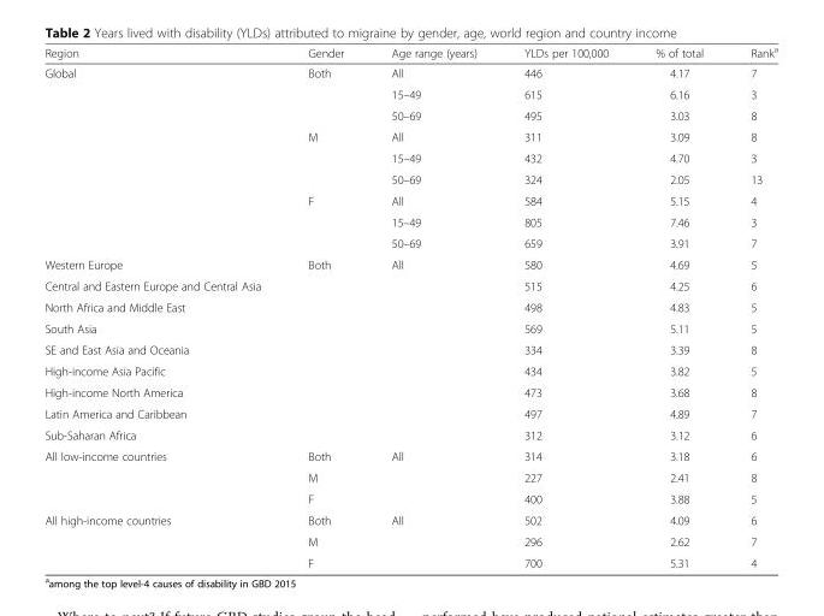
<table><thead><tr><td>Region</td><td>Gender</td><td>Age range (years)</td><td>YLDs per 100,000</td><td>% of total</td><td>Rank<sup>a</sup></td></tr></thead><tbody><tr><td rowspan="9">Global</td><td rowspan="3">Both</td><td>All</td><td>446</td><td>4.17</td><td>7</td></tr><tr><td>15–49</td><td>615</td><td>6.16</td><td>3</td></tr><tr><td>50–69</td><td>495</td><td>3.03</td><td>8</td></tr><tr><td rowspan="3">M</td><td>All</td><td>311</td><td>3.09</td><td>8</td></tr><tr><td>15–49</td><td>432</td><td>4.70</td><td>3</td></tr><tr><td>50–69</td><td>324</td><td>2.05</td><td>13</td></tr><tr><td rowspan="3">F</td><td>All</td><td>584</td><td>5.15</td><td>4</td></tr><tr><td>15–49</td><td>805</td><td>7.46</td><td>3</td></tr><tr><td>50–69</td><td>659</td><td>3.91</td><td>7</td></tr><tr><td>Western Europe</td><td>Both</td><td>All</td><td>580</td><td>4.69</td><td>5</td></tr><tr><td>Central and Eastern Europe and Central Asia</td><td></td><td></td><td>515</td><td>4.25</td><td>6</td></tr><tr><td>North Africa and Middle East</td><td></td><td></td><td>498</td><td>4.83</td><td>5</td></tr><tr><td>South Asia</td><td></td><td></td><td>569</td><td>5.11</td><td>5</td></tr><tr><td>SE and East Asia and Oceania</td><td></td><td></td><td>334</td><td>3.39</td><td>8</td></tr><tr><td>High-income Asia Pacific</td><td></td><td></td><td>434</td><td>3.82</td><td>5</td></tr><tr><td>High-income North America</td><td></td><td></td><td>473</td><td>3.68</td><td>8</td></tr><tr><td>Latin America and Caribbean</td><td></td><td></td><td>497</td><td>4.89</td><td>7</td></tr><tr><td>Sub-Saharan Africa</td><td></td><td></td><td>312</td><td>3.12</td><td>6</td></tr><tr><td rowspan="3">All low-income countries</td><td>Both</td><td>All</td><td>314</td><td>3.18</td><td>6</td></tr><tr><td>M</td><td></td><td>227</td><td>2.41</td><td>8</td></tr><tr><td>F</td><td></td><td>400</td><td>3.88</td><td>5</td></tr><tr><td rowspan="3">All high-income countries</td><td>Both</td><td>All</td><td>502</td><td>4.09</td><td>6</td></tr><tr><td>M</td><td></td><td>296</td><td>2.62</td><td>7</td></tr><tr><td>F</td><td></td><td>700</td><td>5.31</td><td>4</td></tr></tbody></table>